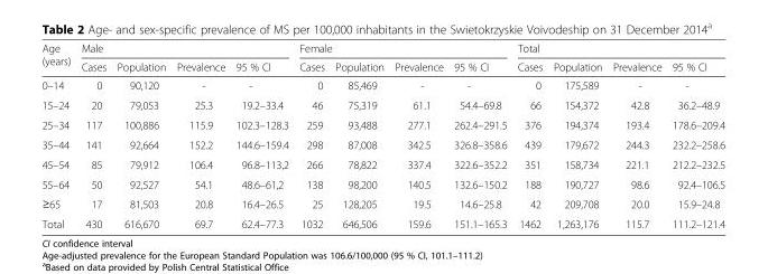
<table><thead><tr><td rowspan="2">Age (years)</td><td colspan="4">Male</td><td colspan="4">Female</td><td colspan="4">Total</td></tr><tr><td>Cases</td><td>Population</td><td>Prevalence</td><td>95 % CI</td><td>Cases</td><td>Population</td><td>Prevalence</td><td>95 % CI</td><td>Cases</td><td>Population</td><td>Prevalence</td><td>95 % CI</td></tr></thead><tbody><tr><td>0–14</td><td>0</td><td>90,120</td><td>-</td><td>-</td><td>0</td><td>85,469</td><td>-</td><td>-</td><td>0</td><td>175,589</td><td>-</td><td>-</td></tr><tr><td>15–24</td><td>20</td><td>79,053</td><td>25.3</td><td>19.2–33.4</td><td>46</td><td>75,319</td><td>61.1</td><td>54.4–69.8</td><td>66</td><td>154,372</td><td>42.8</td><td>36.2–48.9</td></tr><tr><td>25–34</td><td>117</td><td>100,886</td><td>115.9</td><td>102.3–128.3</td><td>259</td><td>93,488</td><td>277.1</td><td>262.4–291.5</td><td>376</td><td>194,374</td><td>193.4</td><td>178.6–209.4</td></tr><tr><td>35–44</td><td>141</td><td>92,664</td><td>152.2</td><td>144.6–159.4</td><td>298</td><td>87,008</td><td>342.5</td><td>326.8–358.6</td><td>439</td><td>179,672</td><td>244.3</td><td>232.2–258.6</td></tr><tr><td>45–54</td><td>85</td><td>79,912</td><td>106.4</td><td>96.8–113,2</td><td>266</td><td>78,822</td><td>337.4</td><td>322.6–352.2</td><td>351</td><td>158,734</td><td>221.1</td><td>212.2–232.5</td></tr><tr><td>55–64</td><td>50</td><td>92,527</td><td>54.1</td><td>48.6–61,2</td><td>138</td><td>98,200</td><td>140.5</td><td>132.6–150.2</td><td>188</td><td>190,727</td><td>98.6</td><td>92.4–106.5</td></tr><tr><td>≥65</td><td>17</td><td>81,503</td><td>20.8</td><td>16.4–26.5</td><td>25</td><td>128,205</td><td>19.5</td><td>14.6–25.8</td><td>42</td><td>209,708</td><td>20.0</td><td>15.9–24.8</td></tr><tr><td>Total</td><td>430</td><td>616,670</td><td>69.7</td><td>62.4–77.3</td><td>1032</td><td>646,506</td><td>159.6</td><td>151.1–165.3</td><td>1462</td><td>1,263,176</td><td>115.7</td><td>111.2–121.4</td></tr></tbody></table>